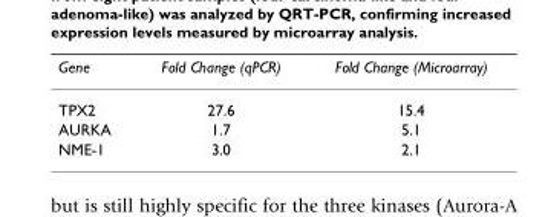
<table><thead><tr><td>Gene</td><td>Fold Change (qPCR)</td><td>Fold Change (Microarray)</td></tr></thead><tbody><tr><td>TPX2</td><td>27.6</td><td>15.4</td></tr><tr><td>AURKA</td><td>1.7</td><td>5.1</td></tr><tr><td>NME-1</td><td>3.0</td><td>2.1</td></tr></tbody></table>